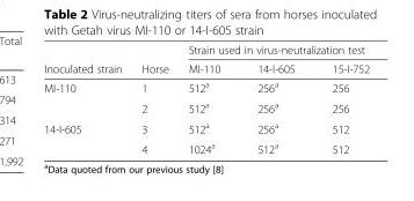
<table><thead><tr><td rowspan="2">Inoculated strain</td><td rowspan="2">Horse</td><td colspan="3">Strain used in virus-neutralization test</td></tr><tr><td>MI-110</td><td>14-I-605</td><td>15-I-752</td></tr></thead><tbody><tr><td rowspan="2">MI-110</td><td>1</td><td>512<sup>a</sup></td><td>256<sup>a</sup></td><td>256</td></tr><tr><td>2</td><td>512<sup>a</sup></td><td>256<sup>a</sup></td><td>256</td></tr><tr><td rowspan="2">14-I-605</td><td>3</td><td>512<sup>a</sup></td><td>256<sup>a</sup></td><td>512</td></tr><tr><td>4</td><td>1024<sup>a</sup></td><td>512<sup>a</sup></td><td>512</td></tr></tbody></table>